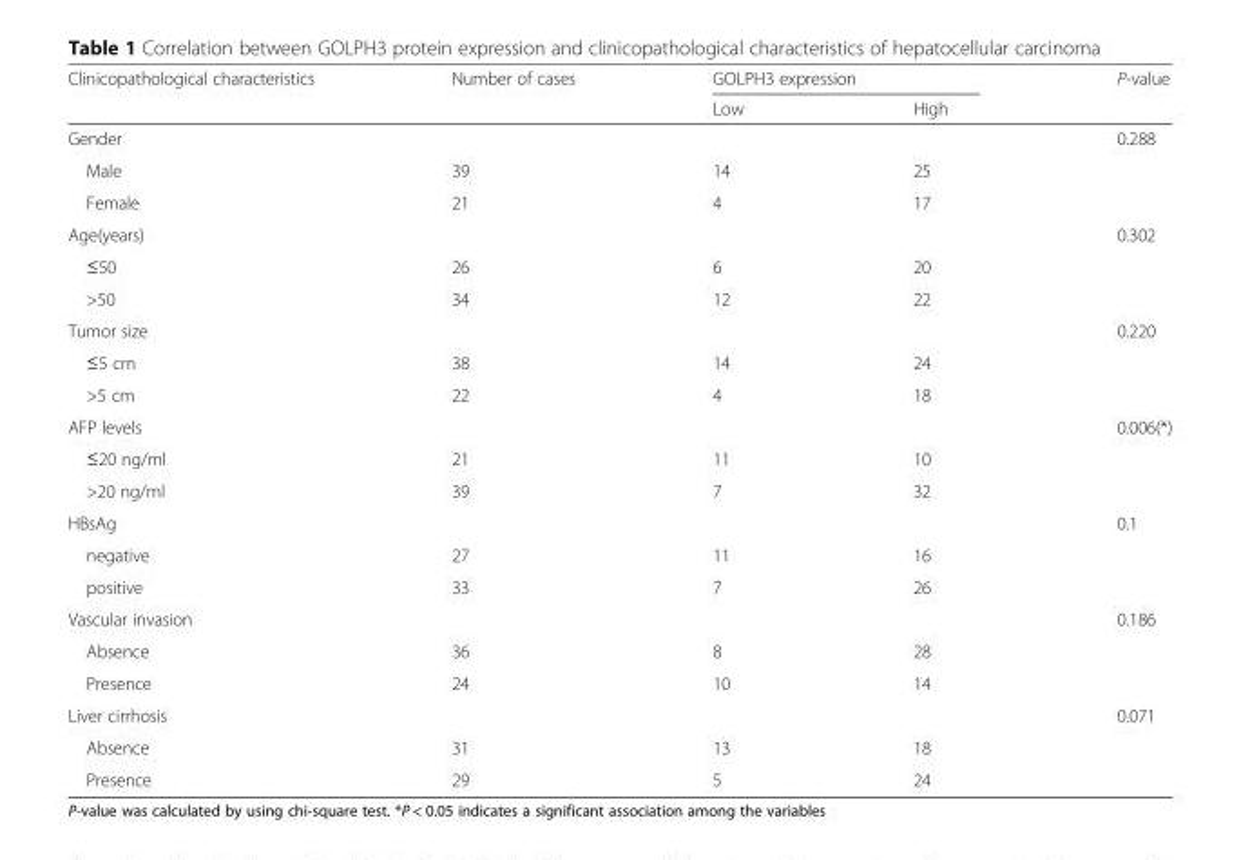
<table><thead><tr><td rowspan="2">Clinicopathological characteristics</td><td rowspan="2">Number of cases</td><td colspan="2">GOLPH3 expression</td><td rowspan="2">P-value</td></tr><tr><td>Low</td><td>High</td></tr></thead><tbody><tr><td>Gender</td><td></td><td></td><td></td><td>0.288</td></tr><tr><td>Male</td><td>39</td><td>14</td><td>25</td><td></td></tr><tr><td>Female</td><td>21</td><td>4</td><td>17</td><td></td></tr><tr><td>Age(years)</td><td></td><td></td><td></td><td>0.302</td></tr><tr><td>≤50</td><td>26</td><td>6</td><td>20</td><td></td></tr><tr><td>&gt;50</td><td>34</td><td>12</td><td>22</td><td></td></tr><tr><td>Tumor size</td><td></td><td></td><td></td><td>0.220</td></tr><tr><td>≤5 cm</td><td>38</td><td>14</td><td>24</td><td></td></tr><tr><td>&gt;5 cm</td><td>22</td><td>4</td><td>18</td><td></td></tr><tr><td>AFP levels</td><td></td><td></td><td></td><td>0.006(*)</td></tr><tr><td>≤20 ng/ml</td><td>21</td><td>11</td><td>10</td><td></td></tr><tr><td>&gt;20 ng/ml</td><td>39</td><td>7</td><td>32</td><td></td></tr><tr><td>HBsAg</td><td></td><td></td><td></td><td>0.1</td></tr><tr><td>negative</td><td>27</td><td>11</td><td>16</td><td></td></tr><tr><td>positive</td><td>33</td><td>7</td><td>26</td><td></td></tr><tr><td>Vascular invasion</td><td></td><td></td><td></td><td>0.186</td></tr><tr><td>Absence</td><td>36</td><td>8</td><td>28</td><td></td></tr><tr><td>Presence</td><td>24</td><td>10</td><td>14</td><td></td></tr><tr><td>Liver cirrhosis</td><td></td><td></td><td></td><td>0.071</td></tr><tr><td>Absence</td><td>31</td><td>13</td><td>18</td><td></td></tr><tr><td>Presence</td><td>29</td><td>5</td><td>24</td><td></td></tr></tbody></table>